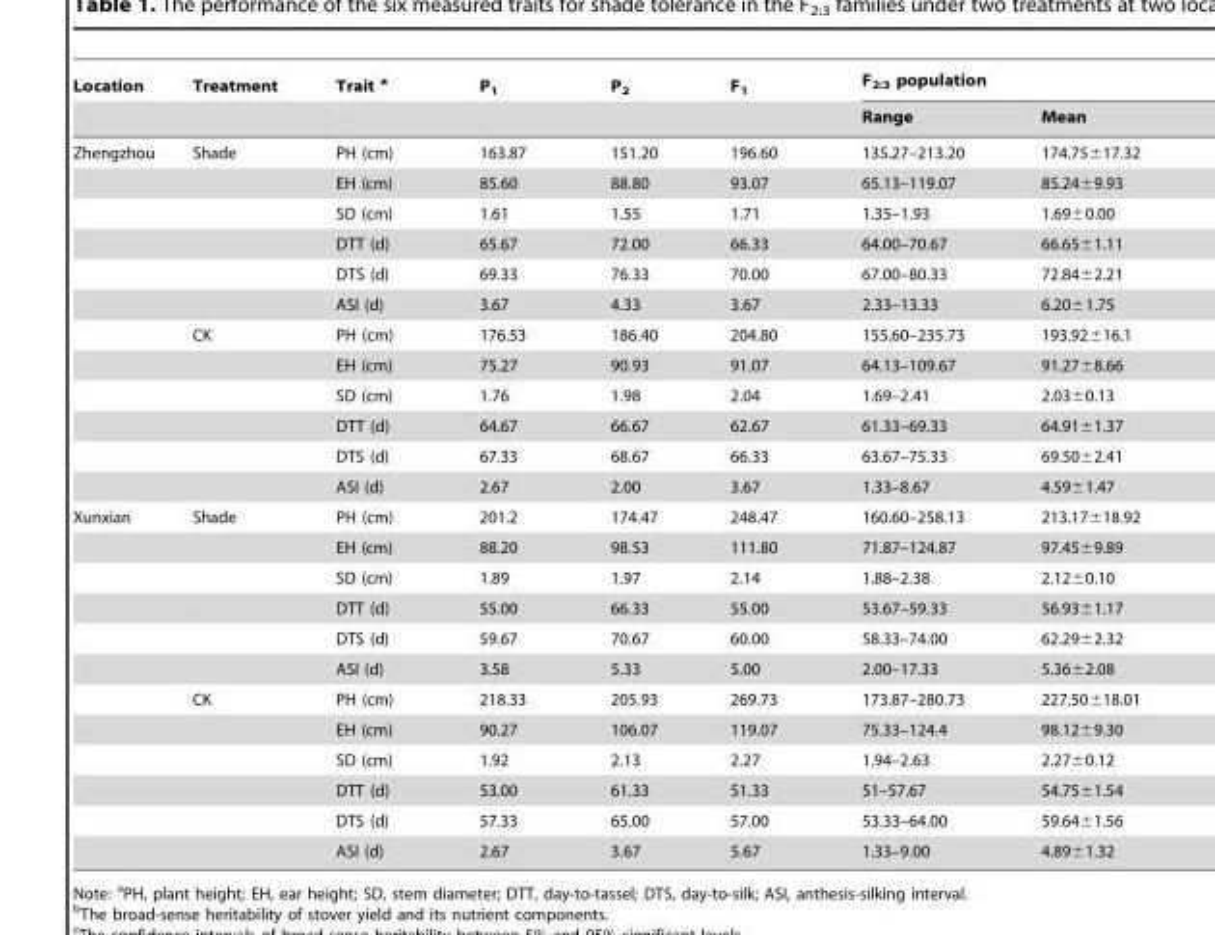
<table><thead><tr><td rowspan="2">Location</td><td rowspan="2">Treatment</td><td rowspan="2">Trait <sup>a</sup></td><td rowspan="2">P<sub>1</sub></td><td rowspan="2">P<sub>2</sub></td><td rowspan="2">F<sub>1</sub></td><td colspan="2">F<sub>2:3</sub> population</td></tr><tr><td>Range</td><td>Mean</td></tr></thead><tbody><tr><td rowspan="12">Zhengzhou</td><td>Shade</td><td>PH (cm)</td><td>163.87</td><td>151.20</td><td>196.60</td><td>135.27–213.20</td><td>174.75±17.32</td></tr><tr><td></td><td>EH (cm)</td><td>85.60</td><td>88.80</td><td>93.07</td><td>65.13–119.07</td><td>85.24±9.93</td></tr><tr><td></td><td>SD (cm)</td><td>1.61</td><td>1.55</td><td>1.71</td><td>1.35–1.93</td><td>1.69±0.00</td></tr><tr><td></td><td>DTT (d)</td><td>65.67</td><td>72.00</td><td>66.33</td><td>64.00–70.67</td><td>66.65±1.11</td></tr><tr><td></td><td>DTS (d)</td><td>69.33</td><td>76.33</td><td>70.00</td><td>67.00–80.33</td><td>72.84±2.21</td></tr><tr><td></td><td>ASI (d)</td><td>3.67</td><td>4.33</td><td>3.67</td><td>2.33–13.33</td><td>6.20±1.75</td></tr><tr><td>CK</td><td>PH (cm)</td><td>176.53</td><td>186.40</td><td>204.80</td><td>155.60–235.73</td><td>193.92±16.1</td></tr><tr><td></td><td>EH (cm)</td><td>75.27</td><td>90.93</td><td>91.07</td><td>64.13–109.67</td><td>91.27±8.66</td></tr><tr><td></td><td>SD (cm)</td><td>1.76</td><td>1.98</td><td>2.04</td><td>1.69–2.41</td><td>2.03±0.13</td></tr><tr><td></td><td>DTT (d)</td><td>64.67</td><td>66.67</td><td>62.67</td><td>61.33–69.33</td><td>64.91±1.37</td></tr><tr><td></td><td>DTS (d)</td><td>67.33</td><td>68.67</td><td>66.33</td><td>63.67–75.33</td><td>69.50±2.41</td></tr><tr><td></td><td>ASI (d)</td><td>2.67</td><td>2.00</td><td>3.67</td><td>1.33–8.67</td><td>4.59±1.47</td></tr><tr><td rowspan="12">Xunxian</td><td>Shade</td><td>PH (cm)</td><td>201.2</td><td>174.47</td><td>248.47</td><td>160.60–258.13</td><td>213.17±18.92</td></tr><tr><td></td><td>EH (cm)</td><td>88.20</td><td>98.53</td><td>111.80</td><td>71.87–124.87</td><td>97.45±9.89</td></tr><tr><td></td><td>SD (cm)</td><td>1.89</td><td>1.97</td><td>2.14</td><td>1.88–2.38</td><td>2.12±0.10</td></tr><tr><td></td><td>DTT (d)</td><td>55.00</td><td>66.33</td><td>55.00</td><td>53.67–59.33</td><td>56.93±1.17</td></tr><tr><td></td><td>DTS (d)</td><td>59.67</td><td>70.67</td><td>60.00</td><td>58.33–74.00</td><td>62.29±2.32</td></tr><tr><td></td><td>ASI (d)</td><td>3.58</td><td>5.33</td><td>5.00</td><td>2.00–17.33</td><td>5.36±2.08</td></tr><tr><td>CK</td><td>PH (cm)</td><td>218.33</td><td>205.93</td><td>269.73</td><td>173.87–280.73</td><td>227.50±18.01</td></tr><tr><td></td><td>EH (cm)</td><td>90.27</td><td>106.07</td><td>119.07</td><td>75.33–124.4</td><td>98.12±9.30</td></tr><tr><td></td><td>SD (cm)</td><td>1.92</td><td>2.13</td><td>2.27</td><td>1.94–2.63</td><td>2.27±0.12</td></tr><tr><td></td><td>DTT (d)</td><td>53.00</td><td>61.33</td><td>51.33</td><td>51–57.67</td><td>54.75±1.54</td></tr><tr><td></td><td>DTS (d)</td><td>57.33</td><td>65.00</td><td>57.00</td><td>53.33–64.00</td><td>59.64±1.56</td></tr><tr><td></td><td>ASI (d)</td><td>2.67</td><td>3.67</td><td>5.67</td><td>1.33–9.00</td><td>4.89±1.32</td></tr></tbody></table>